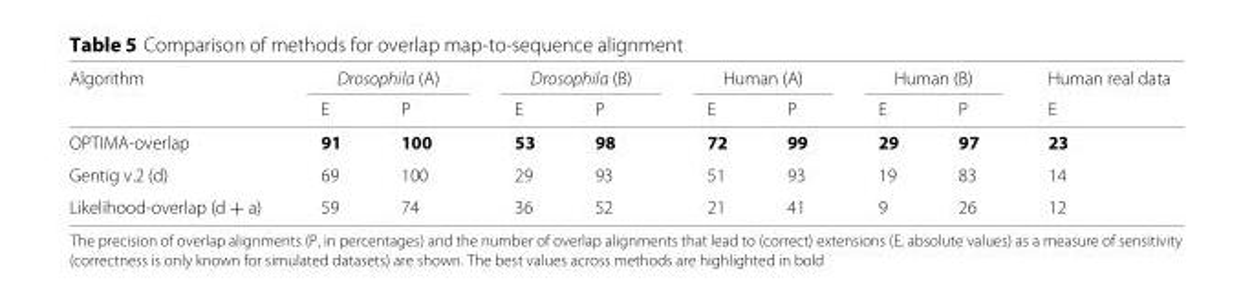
<table><thead><tr><td rowspan="2">Algorithm</td><td colspan="2">Drosophila (A)</td><td colspan="2">Drosophila (B)</td><td colspan="2">Human (A)</td><td colspan="2">Human (B)</td><td rowspan="2">Human real data E</td></tr><tr><td>E</td><td>P</td><td>E</td><td>P</td><td>E</td><td>P</td><td>E</td><td>P</td></tr></thead><tbody><tr><td>OPTIMA-overlap</td><td>91</td><td>100</td><td>53</td><td>98</td><td>72</td><td>99</td><td>29</td><td>97</td><td>23</td></tr><tr><td>Gentig v.2 (d)</td><td>69</td><td>100</td><td>29</td><td>93</td><td>51</td><td>93</td><td>19</td><td>83</td><td>14</td></tr><tr><td>Likelihood-overlap (d + a)</td><td>59</td><td>74</td><td>36</td><td>52</td><td>21</td><td>41</td><td>9</td><td>26</td><td>12</td></tr></tbody></table>